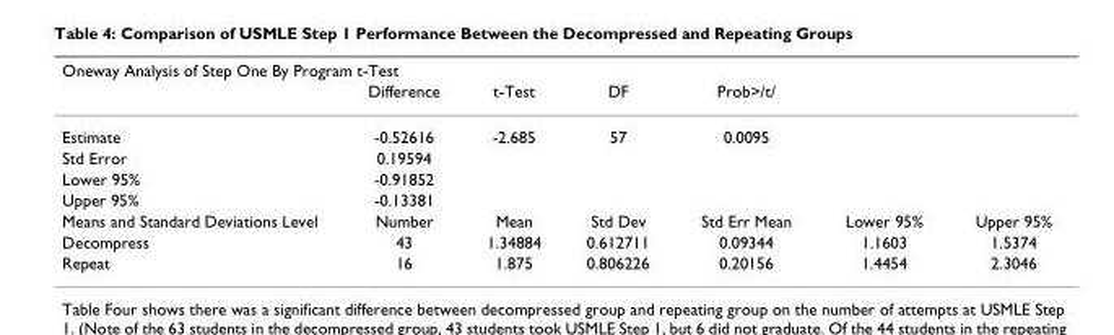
<table><thead><tr><td colspan="7">Oneway Analysis of Step One By Program t-Test</td></tr><tr><td></td><td>Difference</td><td>t-Test</td><td>DF</td><td>Prob&gt;/t/</td><td></td><td></td></tr></thead><tbody><tr><td>Estimate</td><td>-0.52616</td><td>-2.685</td><td>57</td><td>0.0095</td><td></td><td></td></tr><tr><td>Std Error</td><td>0.19594</td><td></td><td></td><td></td><td></td><td></td></tr><tr><td>Lower 95%</td><td>-0.91852</td><td></td><td></td><td></td><td></td><td></td></tr><tr><td>Upper 95%</td><td>-0.13381</td><td></td><td></td><td></td><td></td><td></td></tr><tr><td>Means and Standard Deviations Level</td><td>Number</td><td>Mean</td><td>Std Dev</td><td>Std Err Mean</td><td>Lower 95%</td><td>Upper 95%</td></tr><tr><td>Decompress</td><td>43</td><td>1.34884</td><td>0.612711</td><td>0.09344</td><td>1.1603</td><td>1.5374</td></tr><tr><td>Repeat</td><td>16</td><td>1.875</td><td>0.806226</td><td>0.20156</td><td>1.4454</td><td>2.3046</td></tr></tbody></table>